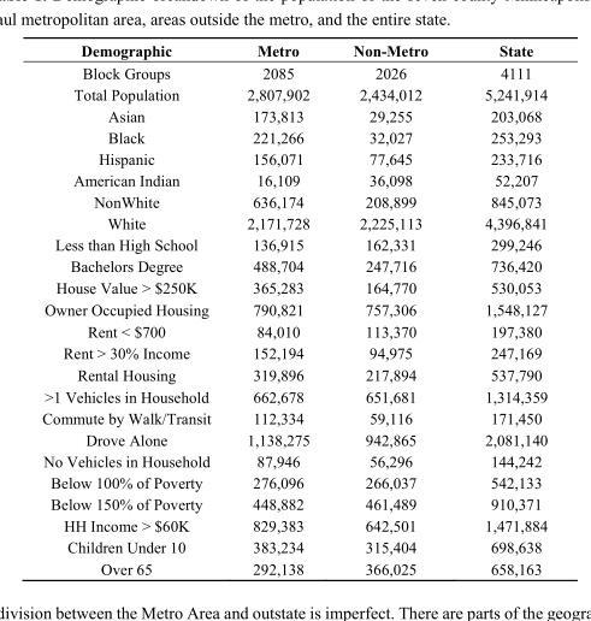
<table><thead><tr><td>Demographic</td><td>Metro</td><td>Non-Metro</td><td>State</td></tr></thead><tbody><tr><td>Block Groups</td><td>2085</td><td>2026</td><td>4111</td></tr><tr><td>Total Population</td><td>2,807,902</td><td>2,434,012</td><td>5,241,914</td></tr><tr><td>Asian</td><td>173,813</td><td>29,255</td><td>203,068</td></tr><tr><td>Black</td><td>221,266</td><td>32,027</td><td>253,293</td></tr><tr><td>Hispanic</td><td>156,071</td><td>77,645</td><td>233,716</td></tr><tr><td>American Indian</td><td>16,109</td><td>36,098</td><td>52,207</td></tr><tr><td>NonWhite</td><td>636,174</td><td>208,899</td><td>845,073</td></tr><tr><td>White</td><td>2,171,728</td><td>2,225,113</td><td>4,396,841</td></tr><tr><td>Less than High School</td><td>136,915</td><td>162,331</td><td>299,246</td></tr><tr><td>Bachelors Degree</td><td>488,704</td><td>247,716</td><td>736,420</td></tr><tr><td>House Value &gt; $250K</td><td>365,283</td><td>164,770</td><td>530,053</td></tr><tr><td>Owner Occupied Housing</td><td>790,821</td><td>757,306</td><td>1,548,127</td></tr><tr><td>Rent &lt; $700</td><td>84,010</td><td>113,370</td><td>197,380</td></tr><tr><td>Rent &gt; 30% Income</td><td>152,194</td><td>94,975</td><td>247,169</td></tr><tr><td>Rental Housing</td><td>319,896</td><td>217,894</td><td>537,790</td></tr><tr><td>&gt;1 Vehicles in Household</td><td>662,678</td><td>651,681</td><td>1,314,359</td></tr><tr><td>Commute by Walk/Transit</td><td>112,334</td><td>59,116</td><td>171,450</td></tr><tr><td>Drove Alone</td><td>1,138,275</td><td>942,865</td><td>2,081,140</td></tr><tr><td>No Vehicles in Household</td><td>87,946</td><td>56,296</td><td>144,242</td></tr><tr><td>Below 100% of Poverty</td><td>276,096</td><td>266,037</td><td>542,133</td></tr><tr><td>Below 150% of Poverty</td><td>448,882</td><td>461,489</td><td>910,371</td></tr><tr><td>HH Income &gt; $60K</td><td>829,383</td><td>642,501</td><td>1,471,884</td></tr><tr><td>Children Under 10</td><td>383,234</td><td>315,404</td><td>698,638</td></tr><tr><td>Over 65</td><td>292,138</td><td>366,025</td><td>658,163</td></tr></tbody></table>